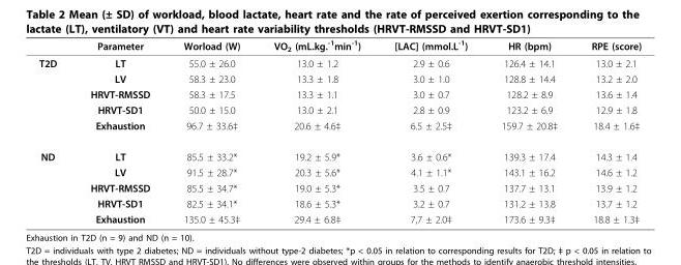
<table><thead><tr><td></td><td>Parameter</td><td>Worload (W)</td><td>VO<sub>2</sub> (mL.kg.<sup>-1</sup>min<sup>-1</sup>)</td><td>[LAC] (mmol.L<sup>-1</sup>)</td><td>HR (bpm)</td><td>RPE (score)</td></tr></thead><tbody><tr><td rowspan="5">T2D</td><td>LT</td><td>55.0 ± 26.0</td><td>13.0 ± 1.2</td><td>2.9 ± 0.6</td><td>126.4 ± 14.1</td><td>13.0 ± 2.1</td></tr><tr><td>LV</td><td>58.3 ± 23.0</td><td>13.3 ± 1.8</td><td>3.0 ± 1.0</td><td>128.8 ± 14.4</td><td>13.2 ± 2.0</td></tr><tr><td>HRVT-RMSSD</td><td>58.3 ± 17.5</td><td>13.3 ± 1.1</td><td>3.0 ± 0.7</td><td>128.2 ± 8.9</td><td>13.6 ± 1.4</td></tr><tr><td>HRVT-SD1</td><td>50.0 ± 15.0</td><td>13.0 ± 2.1</td><td>2.8 ± 0.9</td><td>123.2 ± 6.9</td><td>12.9 ± 1.8</td></tr><tr><td>Exhaustion</td><td>96.7 ± 33.6‡</td><td>20.6 ± 4.6‡</td><td>6.5 ± 2.5‡</td><td>159.7 ± 20.8‡</td><td>18.4 ± 1.6‡</td></tr><tr><td rowspan="5">ND</td><td>LT</td><td>85.5 ± 33.2*</td><td>19.2 ± 5.9*</td><td>3.6 ± 0.6*</td><td>139.3 ± 17.4</td><td>14.3 ± 1.4</td></tr><tr><td>LV</td><td>91.5 ± 28.7*</td><td>20.3 ± 5.6*</td><td>4.1 ± 1.1*</td><td>143.1 ± 16.2</td><td>14.6 ± 1.2</td></tr><tr><td>HRVT-RMSSD</td><td>85.5 ± 34.7*</td><td>19.0 ± 5.3*</td><td>3.5 ± 0.7</td><td>137.7 ± 13.1</td><td>13.9 ± 1.2</td></tr><tr><td>HRVT-SD1</td><td>82.5 ± 34.1*</td><td>18.6 ± 5.3*</td><td>3.2 ± 0.7</td><td>131.2 ± 13.8</td><td>13.7 ± 1.2</td></tr><tr><td>Exhaustion</td><td>135.0 ± 45.3‡</td><td>29.4 ± 6.8‡</td><td>7,7 ± 2.0‡</td><td>173.6 ± 9.3‡</td><td>18.8 ± 1.3‡</td></tr></tbody></table>